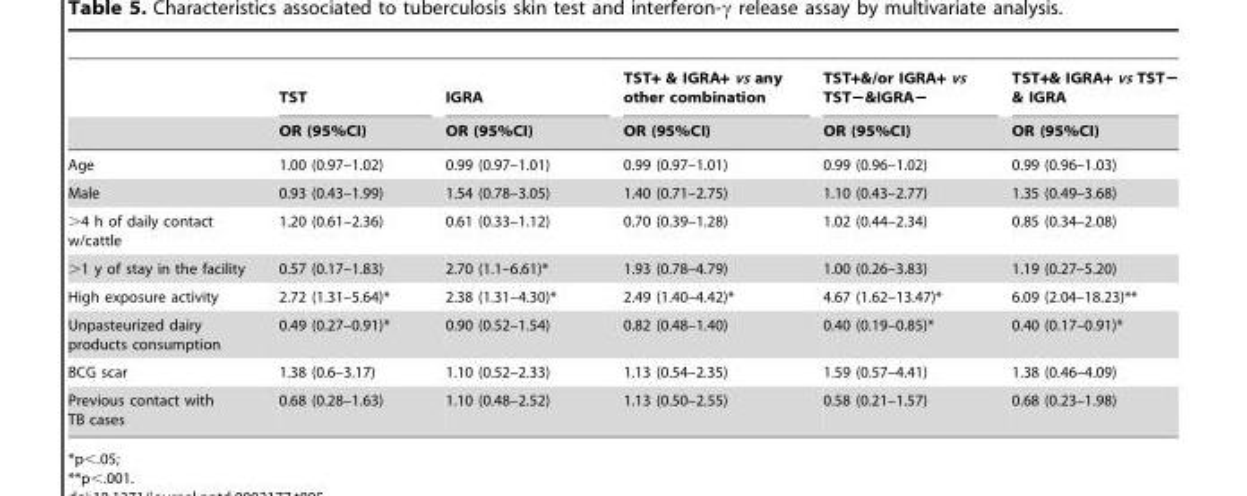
<table><thead><tr><td rowspan="2"></td><td rowspan="2">TST OR (95%CI)</td><td rowspan="2">IGRA OR (95%CI)</td><td rowspan="2">TST+ &amp; IGRA+ vs any other combination OR (95%CI)</td><td rowspan="2">TST+&amp;/or IGRA+ vs TST−&amp;IGRA− OR (95%CI)</td><td rowspan="2">TST+&amp; IGRA+ vs TST− &amp; IGRA OR (95%CI)</td></tr><tr></tr></thead><tbody><tr><td>Age</td><td>1.00 (0.97–1.02)</td><td>0.99 (0.97–1.01)</td><td>0.99 (0.97–1.01)</td><td>0.99 (0.96–1.02)</td><td>0.99 (0.96–1.03)</td></tr><tr><td>Male</td><td>0.93 (0.43–1.99)</td><td>1.54 (0.78–3.05)</td><td>1.40 (0.71–2.75)</td><td>1.10 (0.43–2.77)</td><td>1.35 (0.49–3.68)</td></tr><tr><td>&gt;4 h of daily contact w/cattle</td><td>1.20 (0.61–2.36)</td><td>0.61 (0.33–1.12)</td><td>0.70 (0.39–1.28)</td><td>1.02 (0.44–2.34)</td><td>0.85 (0.34–2.08)</td></tr><tr><td>&gt;1 y of stay in the facility</td><td>0.57 (0.17–1.83)</td><td>2.70 (1.1–6.61)*</td><td>1.93 (0.78–4.79)</td><td>1.00 (0.26–3.83)</td><td>1.19 (0.27–5.20)</td></tr><tr><td>High exposure activity</td><td>2.72 (1.31–5.64)*</td><td>2.38 (1.31–4.30)*</td><td>2.49 (1.40–4.42)*</td><td>4.67 (1.62–13.47)*</td><td>6.09 (2.04–18.23)**</td></tr><tr><td>Unpasteurized dairy products consumption</td><td>0.49 (0.27–0.91)*</td><td>0.90 (0.52–1.54)</td><td>0.82 (0.48–1.40)</td><td>0.40 (0.19–0.85)*</td><td>0.40 (0.17–0.91)*</td></tr><tr><td>BCG scar</td><td>1.38 (0.6–3.17)</td><td>1.10 (0.52–2.33)</td><td>1.13 (0.54–2.35)</td><td>1.59 (0.57–4.41)</td><td>1.38 (0.46–4.09)</td></tr><tr><td>Previous contact with TB cases</td><td>0.68 (0.28–1.63)</td><td>1.10 (0.48–2.52)</td><td>1.13 (0.50–2.55)</td><td>0.58 (0.21–1.57)</td><td>0.68 (0.23–1.98)</td></tr></tbody></table>